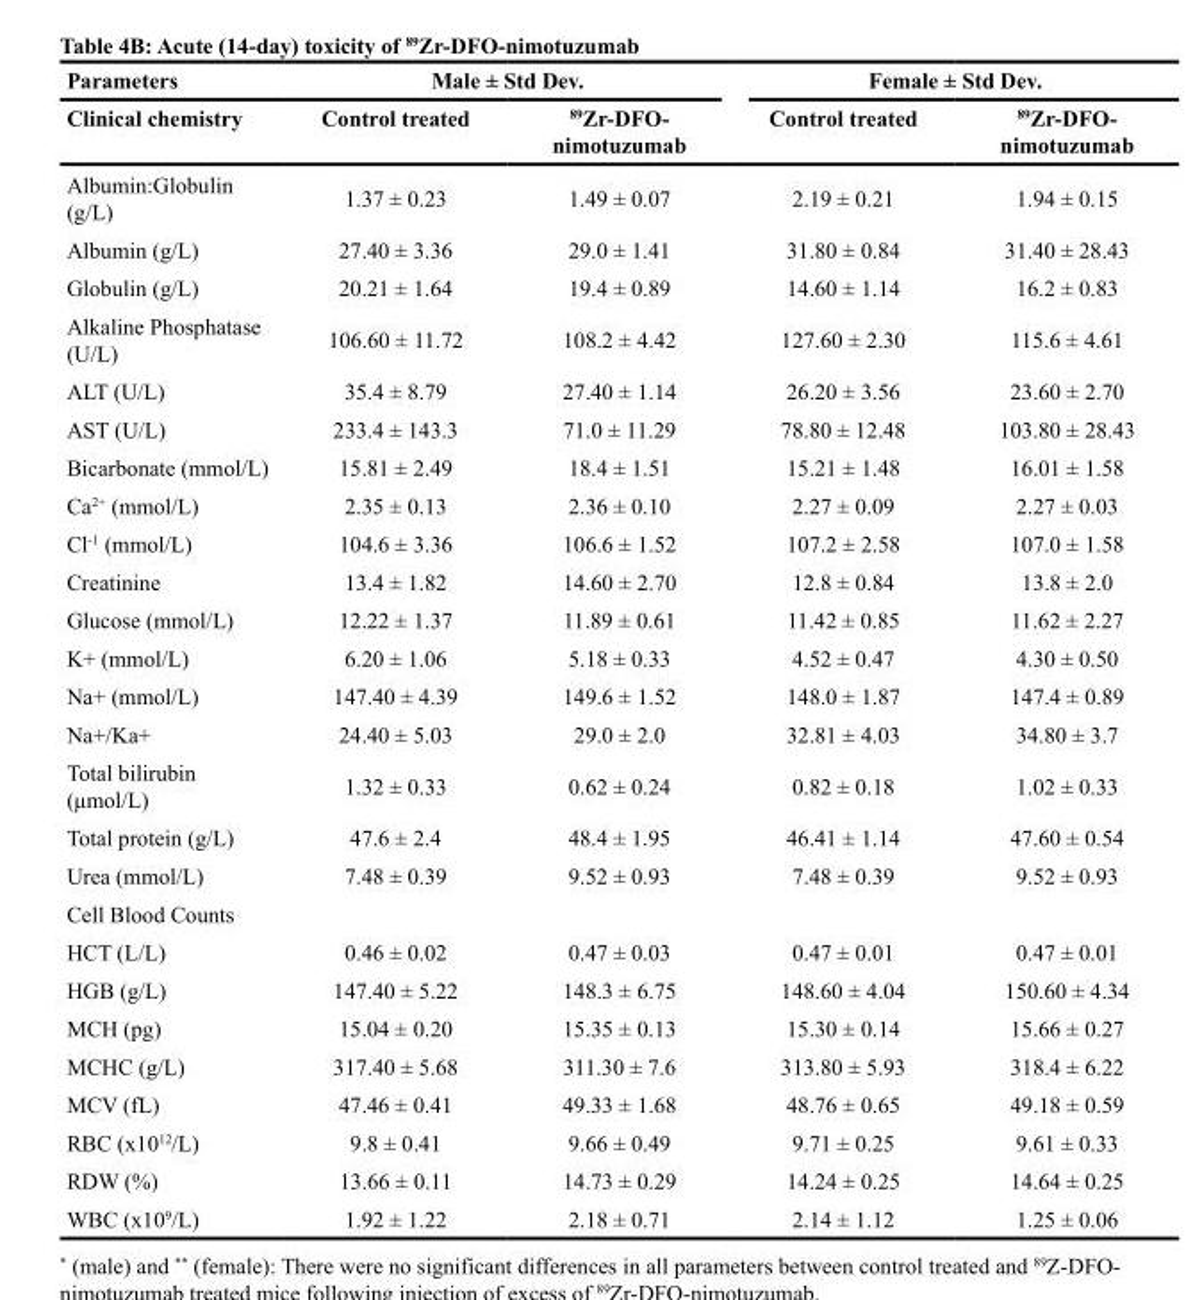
<table><thead><tr><td rowspan="2">Parameters Clinical chemistry</td><td colspan="2">Male ± Std Dev.</td><td colspan="2">Female ± Std Dev.</td></tr><tr><td>Control treated</td><td><sup>89</sup>Zr-DFO- nimotuzumab</td><td>Control treated</td><td><sup>89</sup>Zr-DFO- nimotuzumab</td></tr></thead><tbody><tr><td>Albumin:Globulin (g/L)</td><td>1.37 ± 0.23</td><td>1.49 ± 0.07</td><td>2.19 ± 0.21</td><td>1.94 ± 0.15</td></tr><tr><td>Albumin (g/L)</td><td>27.40 ± 3.36</td><td>29.0 ± 1.41</td><td>31.80 ± 0.84</td><td>31.40 ± 28.43</td></tr><tr><td>Globulin (g/L)</td><td>20.21 ± 1.64</td><td>19.4 ± 0.89</td><td>14.60 ± 1.14</td><td>16.2 ± 0.83</td></tr><tr><td>Alkaline Phosphatase (U/L)</td><td>106.60 ± 11.72</td><td>108.2 ± 4.42</td><td>127.60 ± 2.30</td><td>115.6 ± 4.61</td></tr><tr><td>ALT (U/L)</td><td>35.4 ± 8.79</td><td>27.40 ± 1.14</td><td>26.20 ± 3.56</td><td>23.60 ± 2.70</td></tr><tr><td>AST (U/L)</td><td>233.4 ± 143.3</td><td>71.0 ± 11.29</td><td>78.80 ± 12.48</td><td>103.80 ± 28.43</td></tr><tr><td>Bicarbonate (mmol/L)</td><td>15.81 ± 2.49</td><td>18.4 ± 1.51</td><td>15.21 ± 1.48</td><td>16.01 ± 1.58</td></tr><tr><td>Ca<sup>2+</sup> (mmol/L)</td><td>2.35 ± 0.13</td><td>2.36 ± 0.10</td><td>2.27 ± 0.09</td><td>2.27 ± 0.03</td></tr><tr><td>Cl<sup>-1</sup> (mmol/L)</td><td>104.6 ± 3.36</td><td>106.6 ± 1.52</td><td>107.2 ± 2.58</td><td>107.0 ± 1.58</td></tr><tr><td>Creatinine</td><td>13.4 ± 1.82</td><td>14.60 ± 2.70</td><td>12.8 ± 0.84</td><td>13.8 ± 2.0</td></tr><tr><td>Glucose (mmol/L)</td><td>12.22 ± 1.37</td><td>11.89 ± 0.61</td><td>11.42 ± 0.85</td><td>11.62 ± 2.27</td></tr><tr><td>K+ (mmol/L)</td><td>6.20 ± 1.06</td><td>5.18 ± 0.33</td><td>4.52 ± 0.47</td><td>4.30 ± 0.50</td></tr><tr><td>Na+ (mmol/L)</td><td>147.40 ± 4.39</td><td>149.6 ± 1.52</td><td>148.0 ± 1.87</td><td>147.4 ± 0.89</td></tr><tr><td>Na+/Ka+</td><td>24.40 ± 5.03</td><td>29.0 ± 2.0</td><td>32.81 ± 4.03</td><td>34.80 ± 3.7</td></tr><tr><td>Total bilirubin (μmol/L)</td><td>1.32 ± 0.33</td><td>0.62 ± 0.24</td><td>0.82 ± 0.18</td><td>1.02 ± 0.33</td></tr><tr><td>Total protein (g/L)</td><td>47.6 ± 2.4</td><td>48.4 ± 1.95</td><td>46.41 ± 1.14</td><td>47.60 ± 0.54</td></tr><tr><td>Urea (mmol/L)</td><td>7.48 ± 0.39</td><td>9.52 ± 0.93</td><td>7.48 ± 0.39</td><td>9.52 ± 0.93</td></tr><tr><td colspan="5">Cell Blood Counts</td></tr><tr><td>HCT (L/L)</td><td>0.46 ± 0.02</td><td>0.47 ± 0.03</td><td>0.47 ± 0.01</td><td>0.47 ± 0.01</td></tr><tr><td>HGB (g/L)</td><td>147.40 ± 5.22</td><td>148.3 ± 6.75</td><td>148.60 ± 4.04</td><td>150.60 ± 4.34</td></tr><tr><td>MCH (pg)</td><td>15.04 ± 0.20</td><td>15.35 ± 0.13</td><td>15.30 ± 0.14</td><td>15.66 ± 0.27</td></tr><tr><td>MCHC (g/L)</td><td>317.40 ± 5.68</td><td>311.30 ± 7.6</td><td>313.80 ± 5.93</td><td>318.4 ± 6.22</td></tr><tr><td>MCV (fL)</td><td>47.46 ± 0.41</td><td>49.33 ± 1.68</td><td>48.76 ± 0.65</td><td>49.18 ± 0.59</td></tr><tr><td>RBC (x10<sup>12</sup>/L)</td><td>9.8 ± 0.41</td><td>9.66 ± 0.49</td><td>9.71 ± 0.25</td><td>9.61 ± 0.33</td></tr><tr><td>RDW (%)</td><td>13.66 ± 0.11</td><td>14.73 ± 0.29</td><td>14.24 ± 0.25</td><td>14.64 ± 0.25</td></tr><tr><td>WBC (x10<sup>9</sup>/L)</td><td>1.92 ± 1.22</td><td>2.18 ± 0.71</td><td>2.14 ± 1.12</td><td>1.25 ± 0.06</td></tr></tbody></table>